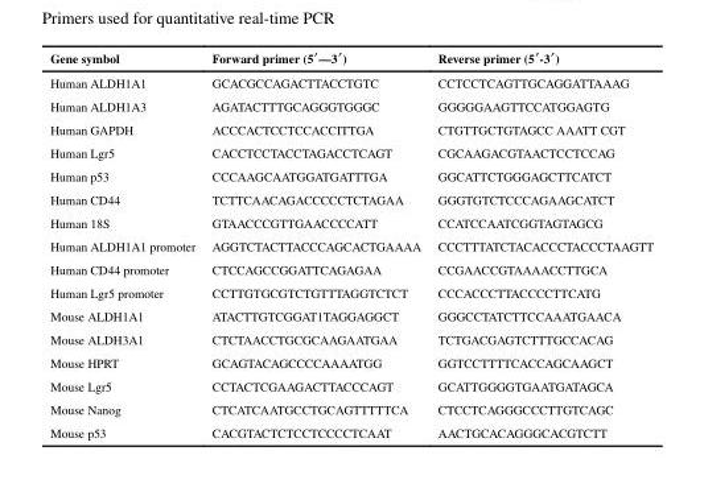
<table><thead><tr><td>Gene symbol</td><td>Forward primer (5′—3′)</td><td>Reverse primer (5′-3′)</td></tr></thead><tbody><tr><td>Human ALDH1A1</td><td>GCACGCCAGACTTACCTGTC</td><td>CCTCCTCAGTTGCAGGATTAAAG</td></tr><tr><td>Human ALDH1A3</td><td>AGATACTTTGCAGGGTGGGC</td><td>GGGGGAAGTTCCATGGAGTG</td></tr><tr><td>Human GAPDH</td><td>ACCCACTCCTCCACCITTGA</td><td>CTGTTGCTGTAGCC AAATT CGT</td></tr><tr><td>Human Lgr5</td><td>CACCTCCTACCTAGACCTCAGT</td><td>CGCAAGACGTAACTCCTCCAG</td></tr><tr><td>Human p53</td><td>CCCAAGCAATGGATGATTTGA</td><td>GGCATTCTGGGAGCTTCATCT</td></tr><tr><td>Human CD44</td><td>TCTTCAACAGACCCCCTCTAGAA</td><td>GGGTGTCTCCCAGAAGCATCT</td></tr><tr><td>Human 18S</td><td>GTAACCCGTTGAACCCCATT</td><td>CCATCCAATCGGTAGTAGCG</td></tr><tr><td>Human ALDH1A1 promoter</td><td>AGGTCTACTTACCCAGCACTGAAAA</td><td>CCCTTTATCTACACCCTACCCTAAGTT</td></tr><tr><td>Human CD44 promoter</td><td>CTCCAGCCGGATTCAGAGAA</td><td>CCGAACCGTAAAACCTTGCA</td></tr><tr><td>Human Lgr5 promoter</td><td>CCTTGTGCGTCTGTTTAGGTCTCT</td><td>CCCACCCTTACCCCTTCATG</td></tr><tr><td>Mouse ALDH1A1</td><td>ATACTTGTCGGAT1TAGGAGGCT</td><td>GGGCCTATCTTCCAAATGAACA</td></tr><tr><td>Mouse ALDH3A1</td><td>CTCTAACCTGCGCAAGAATGAA</td><td>TCTGACGAGTCTTTGCCACAG</td></tr><tr><td>Mouse HPRT</td><td>GCAGTACAGCCCCAAAATGG</td><td>GGTCCTTTTCACCAGCAAGCT</td></tr><tr><td>Mouse Lgr5</td><td>CCTACTCGAAGACTTACCCAGT</td><td>GCATTGGGGTGAATGATAGCA</td></tr><tr><td>Mouse Nanog</td><td>CTCATCAATGCCTGCAGTTTTTCA</td><td>CTCCTCAGGGCCCTTGTCAGC</td></tr><tr><td>Mouse p53</td><td>CACGTACTCTCCTCCCCTCAAT</td><td>AACTGCACAGGGCACGTCTT</td></tr></tbody></table>